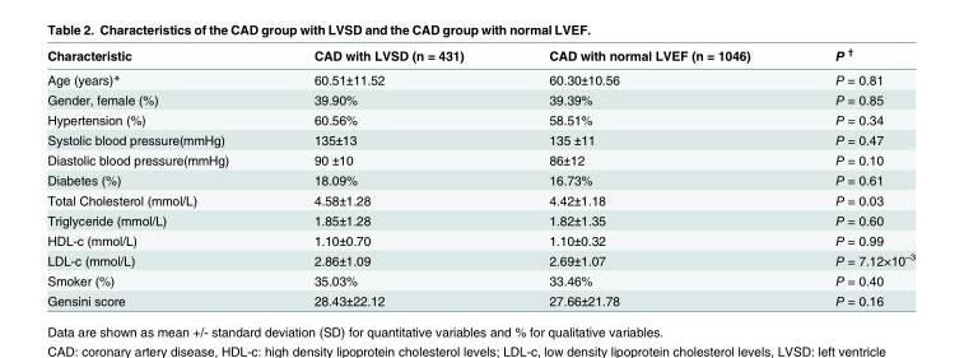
<table><thead><tr><td>Characteristic</td><td>CAD with LVSD (n = 431)</td><td>CAD with normal LVEF (n = 1046)</td><td>P <sup>†</sup></td></tr></thead><tbody><tr><td>Age (years)*</td><td>60.51±11.52</td><td>60.30±10.56</td><td>P = 0.81</td></tr><tr><td>Gender, female (%)</td><td>39.90%</td><td>39.39%</td><td>P = 0.85</td></tr><tr><td>Hypertension (%)</td><td>60.56%</td><td>58.51%</td><td>P = 0.34</td></tr><tr><td>Systolic blood pressure(mmHg)</td><td>135±13</td><td>135 ±11</td><td>P = 0.47</td></tr><tr><td>Diastolic blood pressure(mmHg)</td><td>90 ±10</td><td>86±12</td><td>P = 0.10</td></tr><tr><td>Diabetes (%)</td><td>18.09%</td><td>16.73%</td><td>P = 0.61</td></tr><tr><td>Total Cholesterol (mmol/L)</td><td>4.58±1.28</td><td>4.42±1.18</td><td>P = 0.03</td></tr><tr><td>Triglyceride (mmol/L)</td><td>1.85±1.28</td><td>1.82±1.35</td><td>P = 0.60</td></tr><tr><td>HDL-c (mmol/L)</td><td>1.10±0.70</td><td>1.10±0.32</td><td>P = 0.99</td></tr><tr><td>LDL-c (mmol/L)</td><td>2.86±1.09</td><td>2.69±1.07</td><td>P = 7.12×10<sup>–3</sup></td></tr><tr><td>Smoker (%)</td><td>35.03%</td><td>33.46%</td><td>P = 0.40</td></tr><tr><td>Gensini score</td><td>28.43±22.12</td><td>27.66±21.78</td><td>P = 0.16</td></tr></tbody></table>